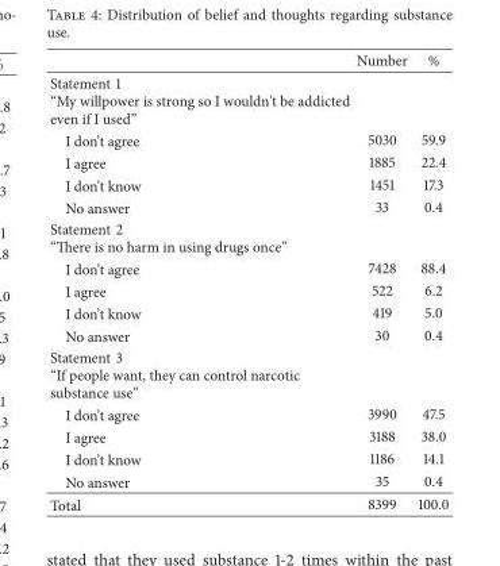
<table><thead><tr><td></td><td>Number</td><td>%</td></tr></thead><tbody><tr><td colspan="3">Statement 1 “My willpower is strong so I wouldn&#x27;t be addicted even if I used”</td></tr><tr><td>I don’t agree</td><td>5030</td><td>59.9</td></tr><tr><td>I agree</td><td>1885</td><td>22.4</td></tr><tr><td>I don’t know</td><td>1451</td><td>17.3</td></tr><tr><td>No answer</td><td>33</td><td>0.4</td></tr><tr><td colspan="3">Statement 2 “There is no harm in using drugs once”</td></tr><tr><td>I don’t agree</td><td>7428</td><td>88.4</td></tr><tr><td>I agree</td><td>522</td><td>6.2</td></tr><tr><td>I don’t know</td><td>419</td><td>5.0</td></tr><tr><td>No answer</td><td>30</td><td>0.4</td></tr><tr><td colspan="3">Statement 3 “If people want, they can control narcotic substance use”</td></tr><tr><td>I don’t agree</td><td>3990</td><td>47.5</td></tr><tr><td>I agree</td><td>3188</td><td>38.0</td></tr><tr><td>I don’t know</td><td>1186</td><td>14.1</td></tr><tr><td>No answer</td><td>35</td><td>0.4</td></tr><tr><td>Total</td><td>8399</td><td>100.0</td></tr></tbody></table>